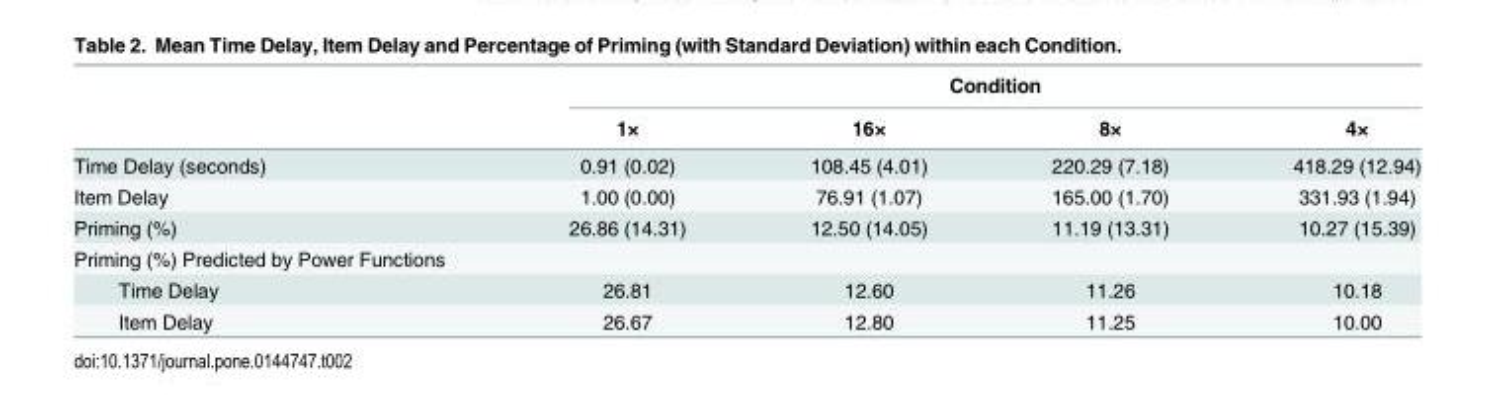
<table><thead><tr><td rowspan="2"></td><td colspan="4">Condition</td></tr><tr><td>1×</td><td>16×</td><td>8×</td><td>4×</td></tr></thead><tbody><tr><td>Time Delay (seconds)</td><td>0.91 (0.02)</td><td>108.45 (4.01)</td><td>220.29 (7.18)</td><td>418.29 (12.94)</td></tr><tr><td>Item Delay</td><td>1.00 (0.00)</td><td>76.91 (1.07)</td><td>165.00 (1.70)</td><td>331.93 (1.94)</td></tr><tr><td>Priming (%)</td><td>26.86 (14.31)</td><td>12.50 (14.05)</td><td>11.19 (13.31)</td><td>10.27 (15.39)</td></tr><tr><td colspan="5">Priming (%) Predicted by Power Functions</td></tr><tr><td>Time Delay</td><td>26.81</td><td>12.60</td><td>11.26</td><td>10.18</td></tr><tr><td>Item Delay</td><td>26.67</td><td>12.80</td><td>11.25</td><td>10.00</td></tr></tbody></table>